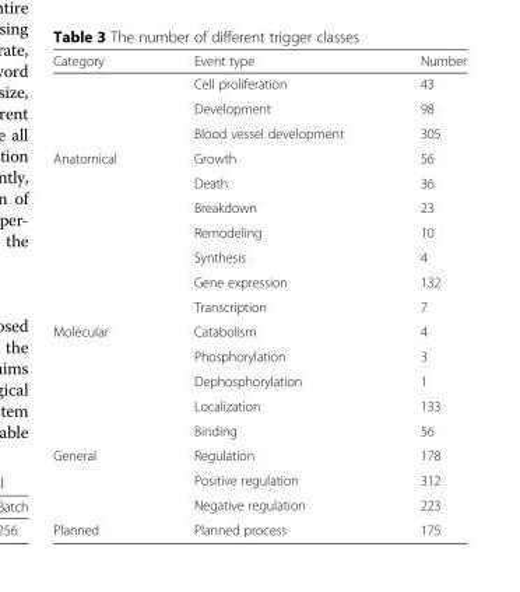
<table><thead><tr><td>Category</td><td>Event type</td><td>Number</td></tr></thead><tbody><tr><td></td><td>Cell proliferation</td><td>43</td></tr><tr><td></td><td>Development</td><td>98</td></tr><tr><td></td><td>Blood vessel development</td><td>305</td></tr><tr><td rowspan="7">Anatomical</td><td>Growth</td><td>56</td></tr><tr><td>Death</td><td>36</td></tr><tr><td>Breakdown</td><td>23</td></tr><tr><td>Remodeling</td><td>10</td></tr><tr><td>Synthesis</td><td>4</td></tr><tr><td>Gene expression</td><td>132</td></tr><tr><td>Transcription</td><td>7</td></tr><tr><td rowspan="5">Molecular</td><td>Catabolism</td><td>4</td></tr><tr><td>Phosphorylation</td><td>3</td></tr><tr><td>Dephosphorylation</td><td>1</td></tr><tr><td>Localization</td><td>133</td></tr><tr><td>Binding</td><td>56</td></tr><tr><td rowspan="3">General</td><td>Regulation</td><td>178</td></tr><tr><td>Positive regulation</td><td>312</td></tr><tr><td>Negative regulation</td><td>223</td></tr><tr><td>Planned</td><td>Planned process</td><td>175</td></tr></tbody></table>